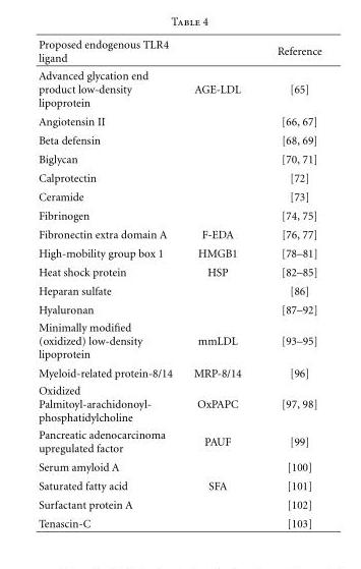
<table><thead><tr><td>Proposed endogenous TLR4 ligand</td><td></td><td>Reference</td></tr></thead><tbody><tr><td>Advanced glycation end product low-density lipoprotein</td><td>AGE-LDL</td><td>[65]</td></tr><tr><td>Angiotensin II</td><td></td><td>[66, 67]</td></tr><tr><td>Beta defensin</td><td></td><td>[68, 69]</td></tr><tr><td>Biglycan</td><td></td><td>[70, 71]</td></tr><tr><td>Calprotectin</td><td></td><td>[72]</td></tr><tr><td>Ceramide</td><td></td><td>[73]</td></tr><tr><td>Fibrinogen</td><td></td><td>[74, 75]</td></tr><tr><td>Fibronectin extra domain A</td><td>F-EDA</td><td>[76, 77]</td></tr><tr><td>High-mobility group box 1</td><td>HMGB1</td><td>[78–81]</td></tr><tr><td>Heat shock protein</td><td>HSP</td><td>[82–85]</td></tr><tr><td>Heparan sulfate</td><td></td><td>[86]</td></tr><tr><td>Hyaluronan</td><td></td><td>[87–92]</td></tr><tr><td>Minimally modified (oxidized) low-density lipoprotein</td><td>mmLDL</td><td>[93–95]</td></tr><tr><td>Myeloid-related protein-8/14</td><td>MRP-8/14</td><td>[96]</td></tr><tr><td>Oxidized Palmitoyl-arachidonoyl- phosphatidylcholine</td><td>OxPAPC</td><td>[97, 98]</td></tr><tr><td>Pancreatic adenocarcinoma upregulated factor</td><td>PAUF</td><td>[99]</td></tr><tr><td>Serum amyloid A</td><td></td><td>[100]</td></tr><tr><td>Saturated fatty acid</td><td>SFA</td><td>[101]</td></tr><tr><td>Surfactant protein A</td><td></td><td>[102]</td></tr><tr><td>Tenascin-C</td><td></td><td>[103]</td></tr></tbody></table>